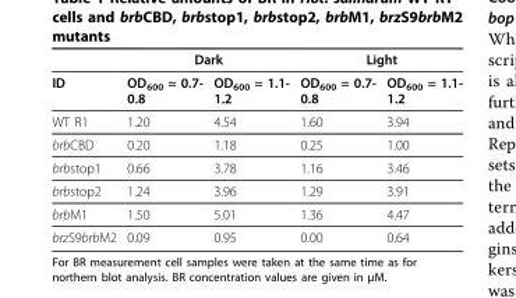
<table><thead><tr><td rowspan="2">ID</td><td colspan="2">Dark</td><td colspan="2">Light</td></tr><tr><td>OD<sub>600</sub> = 0.7- 0.8</td><td>OD<sub>600</sub> = 1.1- 1.2</td><td>OD<sub>600</sub> = 0.7- 0.8</td><td>OD<sub>600</sub> = 1.1- 1.2</td></tr></thead><tbody><tr><td>WT R1</td><td>1.20</td><td>4.54</td><td>1.60</td><td>3.94</td></tr><tr><td>brbCBD</td><td>0.20</td><td>1.18</td><td>0.25</td><td>1.00</td></tr><tr><td>brbstop1</td><td>0.66</td><td>3.78</td><td>1.16</td><td>3.46</td></tr><tr><td>brbstop2</td><td>1.24</td><td>3.96</td><td>1.29</td><td>3.91</td></tr><tr><td>brbM1</td><td>1.50</td><td>5.01</td><td>1.36</td><td>4.47</td></tr><tr><td>brzS9brbM2</td><td>0.09</td><td>0.95</td><td>0.00</td><td>0.64</td></tr></tbody></table>